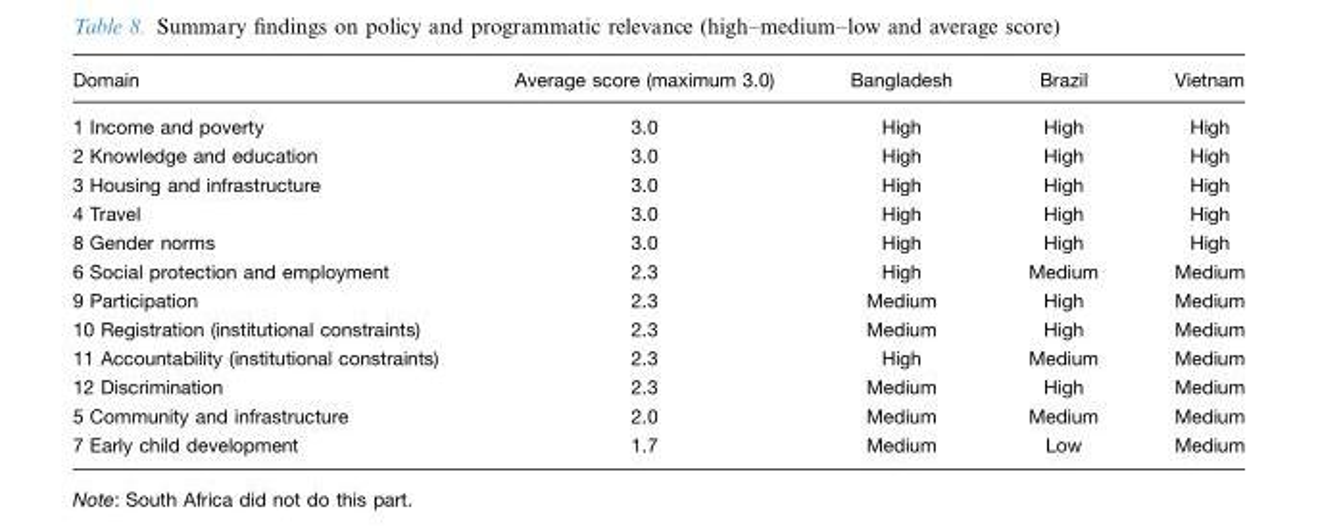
<table><thead><tr><td>Domain</td><td>Average score (maximum 3.0)</td><td>Bangladesh</td><td>Brazil</td><td>Vietnam</td></tr></thead><tbody><tr><td>1 Income and poverty</td><td>3.0</td><td>High</td><td>High</td><td>High</td></tr><tr><td>2 Knowledge and education</td><td>3.0</td><td>High</td><td>High</td><td>High</td></tr><tr><td>3 Housing and infrastructure</td><td>3.0</td><td>High</td><td>High</td><td>High</td></tr><tr><td>4 Travel</td><td>3.0</td><td>High</td><td>High</td><td>High</td></tr><tr><td>8 Gender norms</td><td>3.0</td><td>High</td><td>High</td><td>High</td></tr><tr><td>6 Social protection and employment</td><td>2.3</td><td>High</td><td>Medium</td><td>Medium</td></tr><tr><td>9 Participation</td><td>2.3</td><td>Medium</td><td>High</td><td>Medium</td></tr><tr><td>10 Registration (institutional constraints)</td><td>2.3</td><td>Medium</td><td>High</td><td>Medium</td></tr><tr><td>11 Accountability (institutional constraints)</td><td>2.3</td><td>High</td><td>Medium</td><td>Medium</td></tr><tr><td>12 Discrimination</td><td>2.3</td><td>Medium</td><td>High</td><td>Medium</td></tr><tr><td>5 Community and infrastructure</td><td>2.0</td><td>Medium</td><td>Medium</td><td>Medium</td></tr><tr><td>7 Early child development</td><td>1.7</td><td>Medium</td><td>Low</td><td>Medium</td></tr></tbody></table>